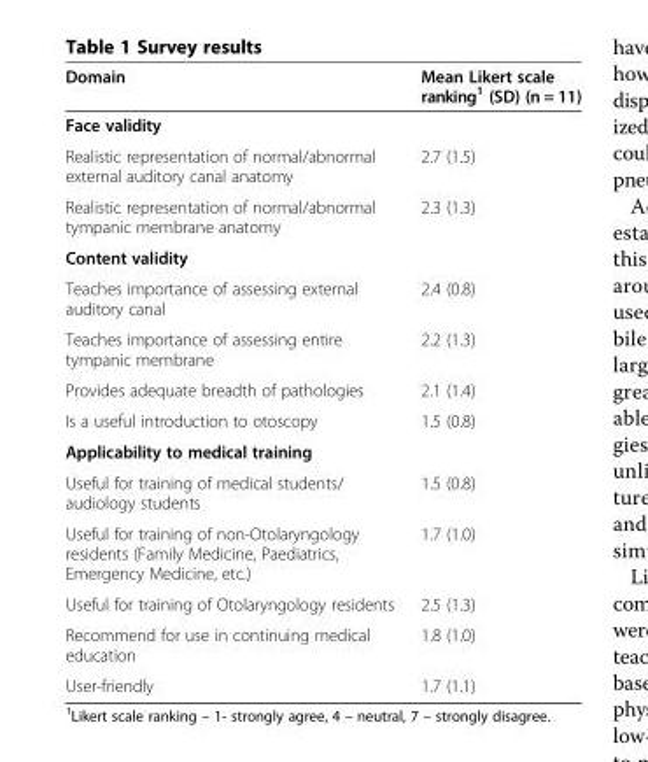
<table><thead><tr><td>Domain</td><td>Mean Likert scale ranking<sup>1</sup> (SD) (n = 11)</td></tr></thead><tbody><tr><td colspan="2">Face validity</td></tr><tr><td>Realistic representation of normal/abnormal external auditory canal anatomy</td><td>2.7 (1.5)</td></tr><tr><td>Realistic representation of normal/abnormal tympanic membrane anatomy</td><td>2.3 (1.3)</td></tr><tr><td colspan="2">Content validity</td></tr><tr><td>Teaches importance of assessing external auditory canal</td><td>2.4 (0.8)</td></tr><tr><td>Teaches importance of assessing entire tympanic membrane</td><td>2.2 (1.3)</td></tr><tr><td>Provides adequate breadth of pathologies</td><td>2.1 (1.4)</td></tr><tr><td>Is a useful introduction to otoscopy</td><td>1.5 (0.8)</td></tr><tr><td colspan="2">Applicability to medical training</td></tr><tr><td>Useful for training of medical students/ audiology students</td><td>1.5 (0.8)</td></tr><tr><td>Useful for training of non-Otolaryngology residents (Family Medicine, Paediatrics, Emergency Medicine, etc.)</td><td>1.7 (1.0)</td></tr><tr><td>Useful for training of Otolaryngology residents</td><td>2.5 (1.3)</td></tr><tr><td>Recommend for use in continuing medical education</td><td>1.8 (1.0)</td></tr><tr><td>User-friendly</td><td>1.7 (1.1)</td></tr></tbody></table>